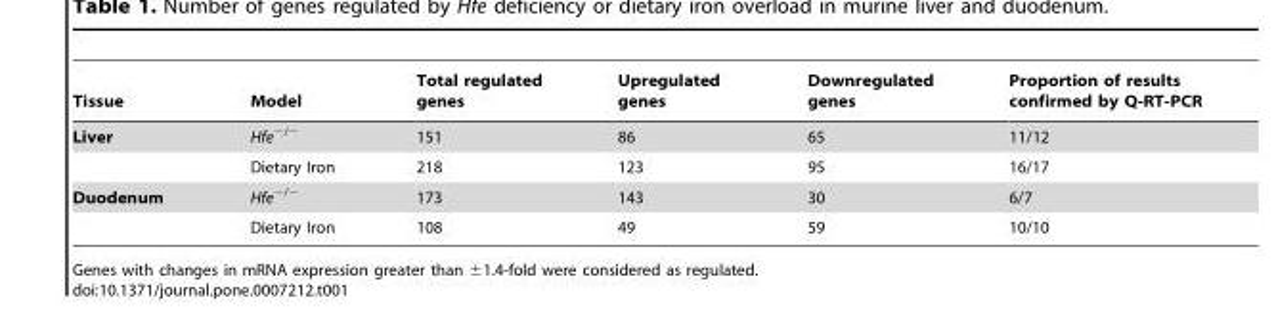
<table><thead><tr><td>Tissue</td><td>Model</td><td>Total regulated genes</td><td>Upregulated genes</td><td>Downregulated genes</td><td>Proportion of results confirmed by Q-RT-PCR</td></tr></thead><tbody><tr><td rowspan="2">Liver</td><td>Hfe<sup>−/−</sup></td><td>151</td><td>86</td><td>65</td><td>11/12</td></tr><tr><td>Dietary Iron</td><td>218</td><td>123</td><td>95</td><td>16/17</td></tr><tr><td rowspan="2">Duodenum</td><td>Hfe<sup>−/−</sup></td><td>173</td><td>143</td><td>30</td><td>6/7</td></tr><tr><td>Dietary Iron</td><td>108</td><td>49</td><td>59</td><td>10/10</td></tr></tbody></table>